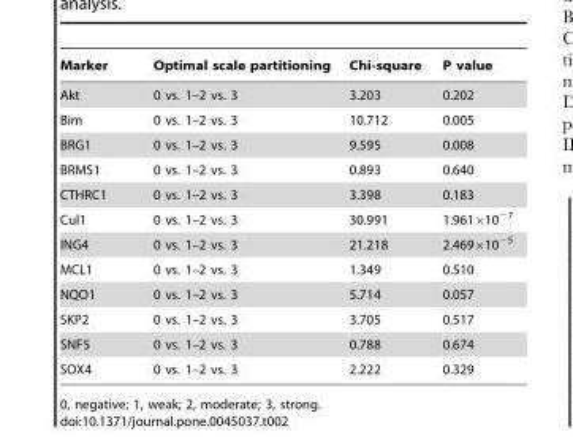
<table><thead><tr><td>Marker</td><td>Optimal scale partitioning</td><td>Chi-square</td><td>P value</td></tr></thead><tbody><tr><td>Akt</td><td>0 vs. 1–2 vs. 3</td><td>3.203</td><td>0.202</td></tr><tr><td>Bim</td><td>0 vs. 1–2 vs. 3</td><td>10.712</td><td>0.005</td></tr><tr><td>BRG1</td><td>0 vs. 1–2 vs. 3</td><td>9.595</td><td>0.008</td></tr><tr><td>BRMS1</td><td>0 vs. 1–2 vs. 3</td><td>0.893</td><td>0.640</td></tr><tr><td>CTHRC1</td><td>0 vs. 1–2 vs. 3</td><td>3.398</td><td>0.183</td></tr><tr><td>Cul1</td><td>0 vs. 1–2 vs. 3</td><td>30.991</td><td>1.961×10<sup>−7</sup></td></tr><tr><td>ING4</td><td>0 vs. 1–2 vs. 3</td><td>21.218</td><td>2.469×10<sup>−5</sup></td></tr><tr><td>MCL1</td><td>0 vs. 1–2 vs. 3</td><td>1.349</td><td>0.510</td></tr><tr><td>NQO1</td><td>0 vs. 1–2 vs. 3</td><td>5.714</td><td>0.057</td></tr><tr><td>SKP2</td><td>0 vs. 1–2 vs. 3</td><td>3.705</td><td>0.517</td></tr><tr><td>SNF5</td><td>0 vs. 1–2 vs. 3</td><td>0.788</td><td>0.674</td></tr><tr><td>SOX4</td><td>0 vs. 1–2 vs. 3</td><td>2.222</td><td>0.329</td></tr></tbody></table>